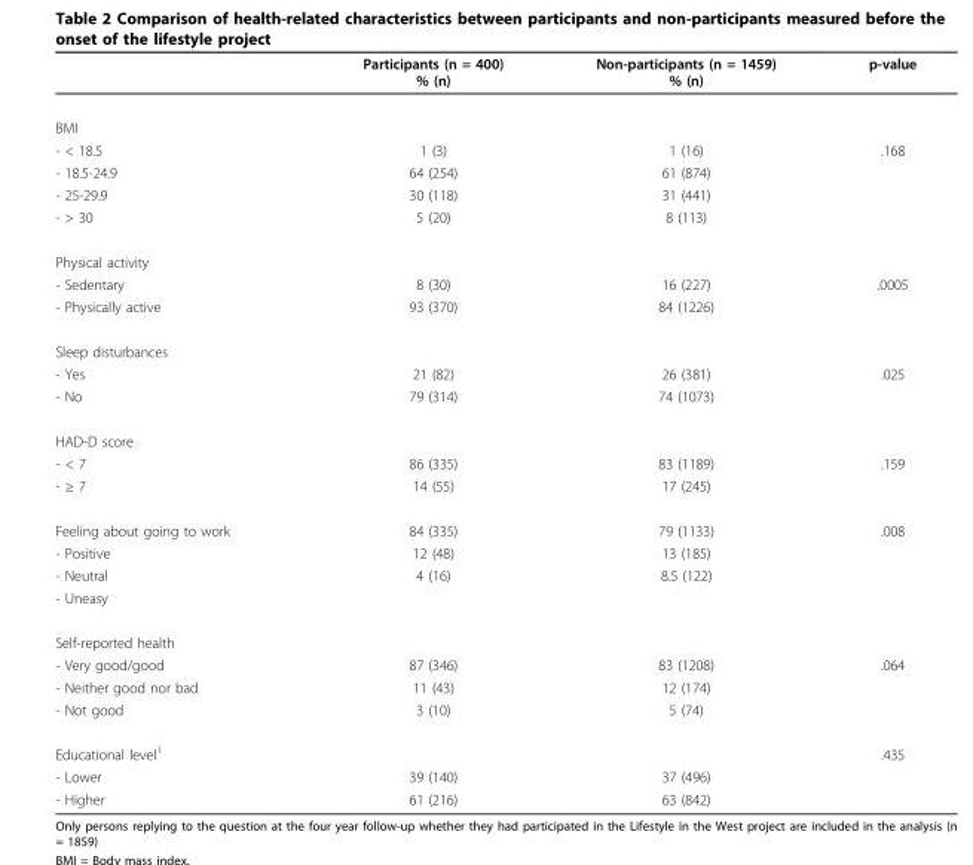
<table><thead><tr><td></td><td>Participants (n = 400) % (n)</td><td>Non-participants (n = 1459) % (n)</td><td>p-value</td></tr></thead><tbody><tr><td colspan="4">BMI</td></tr><tr><td>- &lt; 18.5</td><td>1 (3)</td><td>1 (16)</td><td>.168</td></tr><tr><td>- 18.5-24.9</td><td>64 (254)</td><td>61 (874)</td><td></td></tr><tr><td>- 25-29.9</td><td>30 (118)</td><td>31 (441)</td><td></td></tr><tr><td>- &gt; 30</td><td>5 (20)</td><td>8 (113)</td><td></td></tr><tr><td colspan="4">Physical activity</td></tr><tr><td>- Sedentary</td><td>8 (30)</td><td>16 (227)</td><td>.0005</td></tr><tr><td>- Physically active</td><td>93 (370)</td><td>84 (1226)</td><td></td></tr><tr><td colspan="4">Sleep disturbances</td></tr><tr><td>- Yes</td><td>21 (82)</td><td>26 (381)</td><td>.025</td></tr><tr><td>- No</td><td>79 (314)</td><td>74 (1073)</td><td></td></tr><tr><td colspan="4">HAD-D score</td></tr><tr><td>- &lt; 7</td><td>86 (335)</td><td>83 (1189)</td><td>.159</td></tr><tr><td>- ≥ 7</td><td>14 (55)</td><td>17 (245)</td><td></td></tr><tr><td>Feeling about going to work</td><td>84 (335)</td><td>79 (1133)</td><td>.008</td></tr><tr><td>- Positive</td><td>12 (48)</td><td>13 (185)</td><td></td></tr><tr><td>- Neutral</td><td>4 (16)</td><td>8.5 (122)</td><td></td></tr><tr><td colspan="4">- Uneasy</td></tr><tr><td colspan="4">Self-reported health</td></tr><tr><td>- Very good/good</td><td>87 (346)</td><td>83 (1208)</td><td>.064</td></tr><tr><td>- Neither good nor bad</td><td>11 (43)</td><td>12 (174)</td><td></td></tr><tr><td>- Not good</td><td>3 (10)</td><td>5 (74)</td><td></td></tr><tr><td>Educational level<sup>1</sup></td><td></td><td></td><td>.435</td></tr><tr><td>- Lower</td><td>39 (140)</td><td>37 (496)</td><td></td></tr><tr><td>- Higher</td><td>61 (216)</td><td>63 (842)</td><td></td></tr></tbody></table>